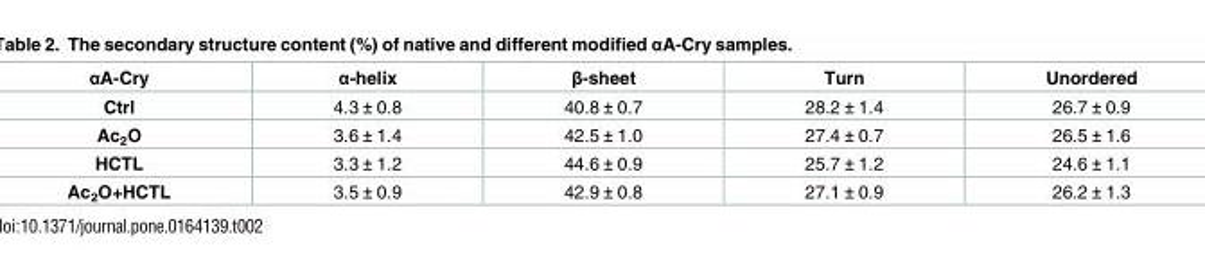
<table><thead><tr><td>αA-Cry</td><td>α-helix</td><td>β-sheet</td><td>Turn</td><td>Unordered</td></tr></thead><tbody><tr><td>Ctrl</td><td>4.3 ± 0.8</td><td>40.8 ± 0.7</td><td>28.2 ± 1.4</td><td>26.7 ± 0.9</td></tr><tr><td>Ac<sub>2</sub>O</td><td>3.6 ± 1.4</td><td>42.5 ± 1.0</td><td>27.4 ± 0.7</td><td>26.5 ± 1.6</td></tr><tr><td>HCTL</td><td>3.3 ± 1.2</td><td>44.6 ± 0.9</td><td>25.7 ± 1.2</td><td>24.6 ± 1.1</td></tr><tr><td>Ac<sub>2</sub>O+HCTL</td><td>3.5 ± 0.9</td><td>42.9 ± 0.8</td><td>27.1 ± 0.9</td><td>26.2 ± 1.3</td></tr></tbody></table>